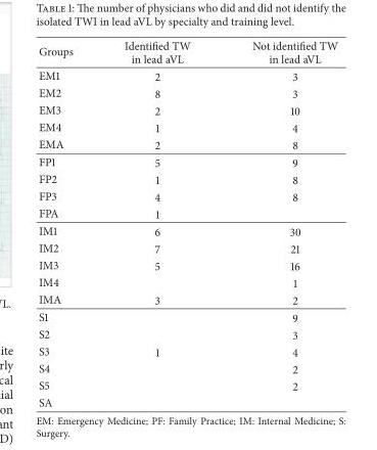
<table><thead><tr><td>Groups</td><td>Identified TW in lead aVL</td><td>Not identified TW in lead aVL</td></tr></thead><tbody><tr><td>EM1</td><td>2</td><td>3</td></tr><tr><td>EM2</td><td>8</td><td>3</td></tr><tr><td>EM3</td><td>2</td><td>10</td></tr><tr><td>EM4</td><td>1</td><td>4</td></tr><tr><td>EMA</td><td>2</td><td>8</td></tr><tr><td>FP1</td><td>5</td><td>9</td></tr><tr><td>FP2</td><td>1</td><td>8</td></tr><tr><td>FP3</td><td>4</td><td>8</td></tr><tr><td>FPA</td><td>1</td><td></td></tr><tr><td>IM1</td><td>6</td><td>30</td></tr><tr><td>IM2</td><td>7</td><td>21</td></tr><tr><td>IM3</td><td>5</td><td>16</td></tr><tr><td>IM4</td><td></td><td>1</td></tr><tr><td>IMA</td><td>3</td><td>2</td></tr><tr><td>S1</td><td></td><td>9</td></tr><tr><td>S2</td><td></td><td>3</td></tr><tr><td>S3</td><td>1</td><td>4</td></tr><tr><td>S4</td><td></td><td>2</td></tr><tr><td>S5</td><td></td><td>2</td></tr><tr><td>SA</td><td></td><td></td></tr></tbody></table>